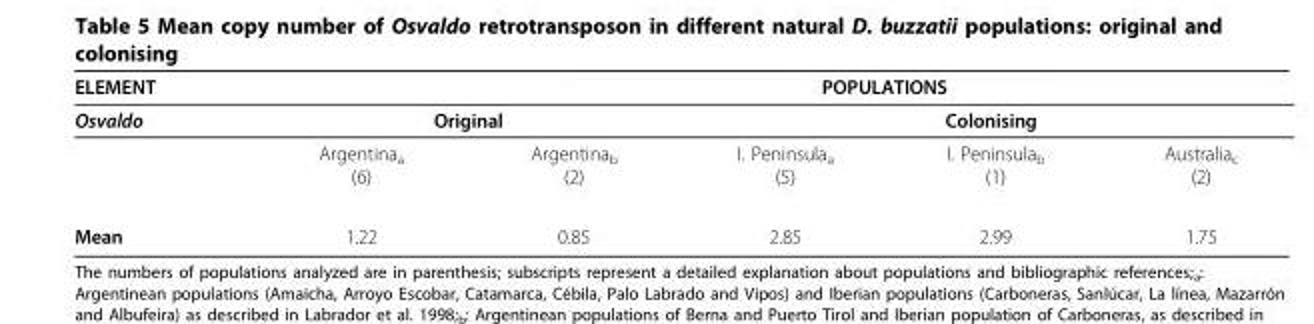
<table><thead><tr><td colspan="2">ELEMENT</td><td colspan="4">POPULATIONS</td></tr><tr><td rowspan="2">Osvaldo</td><td colspan="2">Original</td><td colspan="3">Colonising</td></tr><tr><td>Argentina<sub>a</sub> (6)</td><td>Argentina<sub>b</sub> (2)</td><td>I. Peninsula<sub>a</sub> (5)</td><td>I. Peninsula<sub>b</sub> (1)</td><td>Australia<sub>c</sub> (2)</td></tr></thead><tbody><tr><td>Mean</td><td>1.22</td><td>0.85</td><td>2.85</td><td>2.99</td><td>1.75</td></tr></tbody></table>